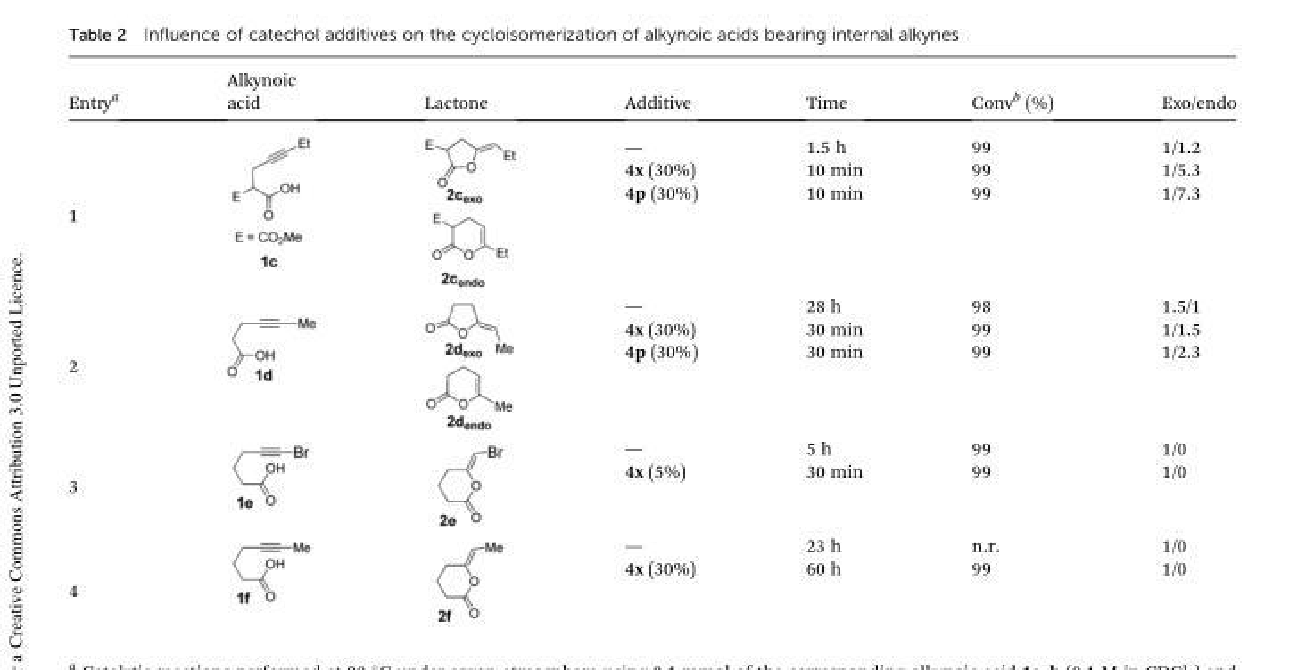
<table><thead><tr><td>Entry<sup>a</sup></td><td>Alkynoic acid</td><td>Lactone</td><td>Additive</td><td>Time</td><td>Conv<sup>b</sup> (%)</td><td>Exo/endo</td></tr></thead><tbody><tr><td rowspan="3">1</td><td rowspan="3"></td><td rowspan="3"></td><td>—</td><td>1.5 h</td><td>99</td><td>1/1.2</td></tr><tr><td>4x (30%)</td><td>10 min</td><td>99</td><td>1/5.3</td></tr><tr><td>4p (30%)</td><td>10 min</td><td>99</td><td>1/7.3</td></tr><tr><td rowspan="3">2</td><td rowspan="3"></td><td rowspan="3"></td><td>—</td><td>28 h</td><td>98</td><td>1.5/1</td></tr><tr><td>4x (30%)</td><td>30 min</td><td>99</td><td>1/1.5</td></tr><tr><td>4p (30%)</td><td>30 min</td><td>99</td><td>1/2.3</td></tr><tr><td rowspan="2">3</td><td rowspan="2"></td><td rowspan="2"></td><td>—</td><td>5 h</td><td>99</td><td>1/0</td></tr><tr><td>4x (5%)</td><td>30 min</td><td>99</td><td>1/0</td></tr><tr><td rowspan="2">4</td><td rowspan="2"></td><td rowspan="2"></td><td>—</td><td>23 h</td><td>n.r.</td><td>1/0</td></tr><tr><td>4x (30%)</td><td>60 h</td><td>99</td><td>1/0</td></tr></tbody></table>